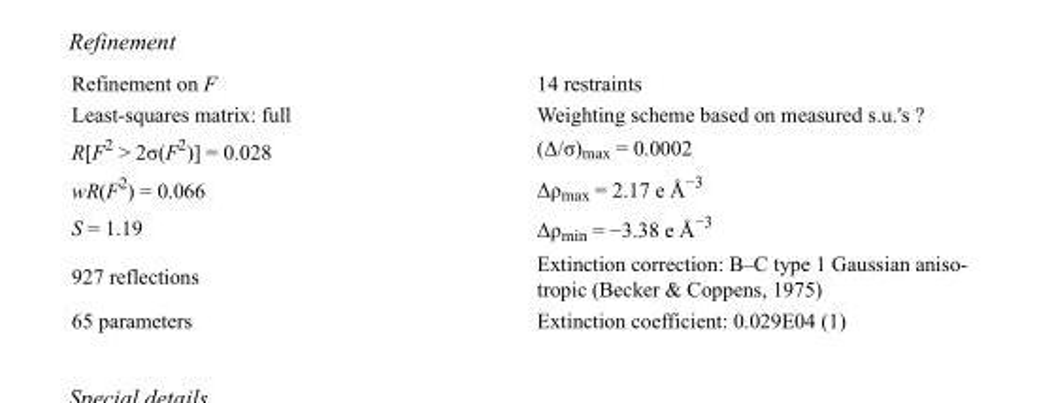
<table><tbody><tr><td>Refinement on F</td><td>14 restraints</td></tr><tr><td>Least-squares matrix: full</td><td>Weighting scheme based on measured s.u.&#x27;s ?</td></tr><tr><td>R[F<sup>2</sup> &gt; 2σ(F<sup>2</sup>)] = 0.028</td><td>(Δ/σ)<sub>max</sub> = 0.0002</td></tr><tr><td>wR(F<sup>2</sup>) = 0.066</td><td>Δρ<sub>max</sub> = 2.17 e Å<sup>−3</sup></td></tr><tr><td>S = 1.19</td><td>Δρ<sub>min</sub> = −3.38 e Å<sup>−3</sup></td></tr><tr><td>927 reflections</td><td>Extinction correction: B–C type 1 Gaussian aniso- tropic (Becker &amp; Coppens, 1975)</td></tr><tr><td>65 parameters</td><td>Extinction coefficient: 0.029E04 (1)</td></tr></tbody></table>